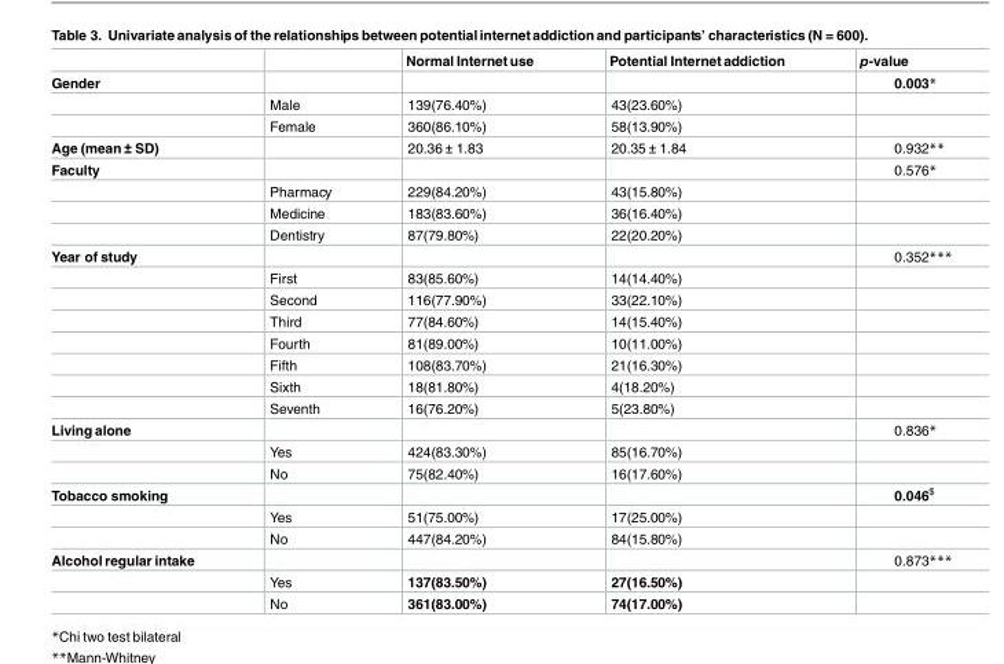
<table><thead><tr><td></td><td></td><td>Normal Internet use</td><td>Potential Internet addiction</td><td>p-value</td></tr></thead><tbody><tr><td rowspan="3">Gender</td><td></td><td></td><td></td><td>0.003*</td></tr><tr><td>Male</td><td>139(76.40%)</td><td>43(23.60%)</td><td></td></tr><tr><td>Female</td><td>360(86.10%)</td><td>58(13.90%)</td><td></td></tr><tr><td>Age (mean ± SD)</td><td></td><td>20.36 ± 1.83</td><td>20.35 ± 1.84</td><td>0.932**</td></tr><tr><td rowspan="4">Faculty</td><td></td><td></td><td></td><td>0.576*</td></tr><tr><td>Pharmacy</td><td>229(84.20%)</td><td>43(15.80%)</td><td></td></tr><tr><td>Medicine</td><td>183(83.60%)</td><td>36(16.40%)</td><td></td></tr><tr><td>Dentistry</td><td>87(79.80%)</td><td>22(20.20%)</td><td></td></tr><tr><td rowspan="8">Year of study</td><td></td><td></td><td></td><td>0.352***</td></tr><tr><td>First</td><td>83(85.60%)</td><td>14(14.40%)</td><td></td></tr><tr><td>Second</td><td>116(77.90%)</td><td>33(22.10%)</td><td></td></tr><tr><td>Third</td><td>77(84.60%)</td><td>14(15.40%)</td><td></td></tr><tr><td>Fourth</td><td>81(89.00%)</td><td>10(11.00%)</td><td></td></tr><tr><td>Fifth</td><td>108(83.70%)</td><td>21(16.30%)</td><td></td></tr><tr><td>Sixth</td><td>18(81.80%)</td><td>4(18.20%)</td><td></td></tr><tr><td>Seventh</td><td>16(76.20%)</td><td>5(23.80%)</td><td></td></tr><tr><td rowspan="3">Living alone</td><td></td><td></td><td></td><td>0.836*</td></tr><tr><td>Yes</td><td>424(83.30%)</td><td>85(16.70%)</td><td></td></tr><tr><td>No</td><td>75(82.40%)</td><td>16(17.60%)</td><td></td></tr><tr><td rowspan="3">Tobacco smoking</td><td></td><td></td><td></td><td>0.046<sup>$</sup></td></tr><tr><td>Yes</td><td>51(75.00%)</td><td>17(25.00%)</td><td></td></tr><tr><td>No</td><td>447(84.20%)</td><td>84(15.80%)</td><td></td></tr><tr><td rowspan="3">Alcohol regular intake</td><td></td><td></td><td></td><td>0.873***</td></tr><tr><td>Yes</td><td>137(83.50%)</td><td>27(16.50%)</td><td></td></tr><tr><td>No</td><td>361(83.00%)</td><td>74(17.00%)</td><td></td></tr></tbody></table>